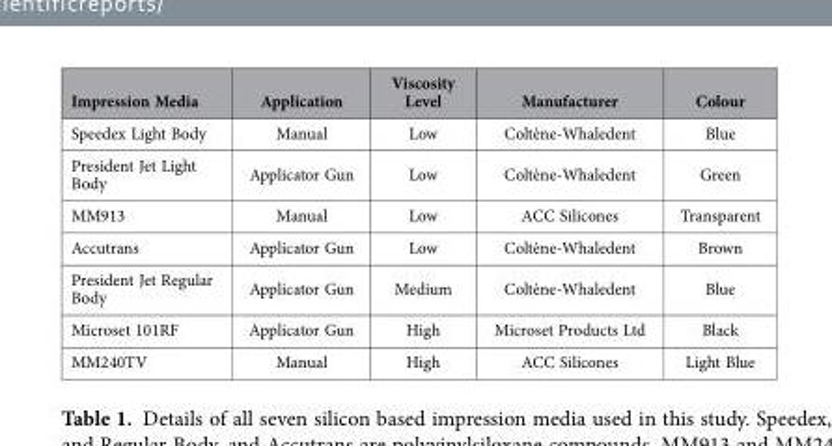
<table><thead><tr><td>Impression Media</td><td>Application</td><td>Viscosity Level</td><td>Manufacturer</td><td>Colour</td></tr></thead><tbody><tr><td>Speedex Light Body</td><td>Manual</td><td>Low</td><td>Coltène-Whaledent</td><td>Blue</td></tr><tr><td>President Jet Light Body</td><td>Applicator Gun</td><td>Low</td><td>Coltène-Whaledent</td><td>Green</td></tr><tr><td>MM913</td><td>Manual</td><td>Low</td><td>ACC Silicones</td><td>Transparent</td></tr><tr><td>Accutrans</td><td>Applicator Gun</td><td>Low</td><td>Coltène-Whaledent</td><td>Brown</td></tr><tr><td>President Jet Regular Body</td><td>Applicator Gun</td><td>Medium</td><td>Coltène-Whaledent</td><td>Blue</td></tr><tr><td>Microset 101RF</td><td>Applicator Gun</td><td>High</td><td>Microset Products Ltd</td><td>Black</td></tr><tr><td>MM240TV</td><td>Manual</td><td>High</td><td>ACC Silicones</td><td>Light Blue</td></tr></tbody></table>